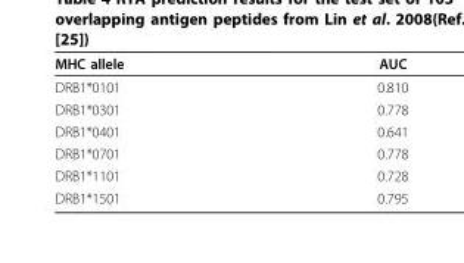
<table><thead><tr><td>MHC allele</td><td>AUC</td></tr></thead><tbody><tr><td>DRB1*0101</td><td>0.810</td></tr><tr><td>DRB1*0301</td><td>0.778</td></tr><tr><td>DRB1*0401</td><td>0.641</td></tr><tr><td>DRB1*0701</td><td>0.778</td></tr><tr><td>DRB1*1101</td><td>0.728</td></tr><tr><td>DRB1*1501</td><td>0.795</td></tr></tbody></table>